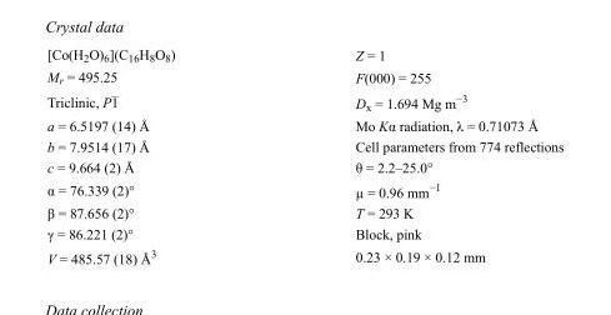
<table><tbody><tr><td>[Co(H<sub>2</sub>O)<sub>6</sub>](C<sub>16</sub>H<sub>8</sub>O<sub>8</sub>)</td><td>Z = 1</td></tr><tr><td>M<sub>r</sub> = 495.25</td><td>F(000) = 255</td></tr><tr><td>Triclinic, P1</td><td>D<sub>x</sub> = 1.694 Mg m<sup>−3</sup></td></tr><tr><td>a = 6.5197 (14) Å</td><td>Mo Kα radiation, λ = 0.71073 Å</td></tr><tr><td>b = 7.9514 (17) Å</td><td>Cell parameters from 774 reflections</td></tr><tr><td>c = 9.664 (2) Å</td><td>θ = 2.2–25.0°</td></tr><tr><td>α = 76.339 (2)°</td><td>µ = 0.96 mm<sup>−1</sup></td></tr><tr><td>β = 87.656 (2)°</td><td>T = 293 K</td></tr><tr><td>γ = 86.221 (2)°</td><td>Block, pink</td></tr><tr><td>V = 485.57 (18) Å<sup>3</sup></td><td>0.23 × 0.19 × 0.12 mm</td></tr></tbody></table>